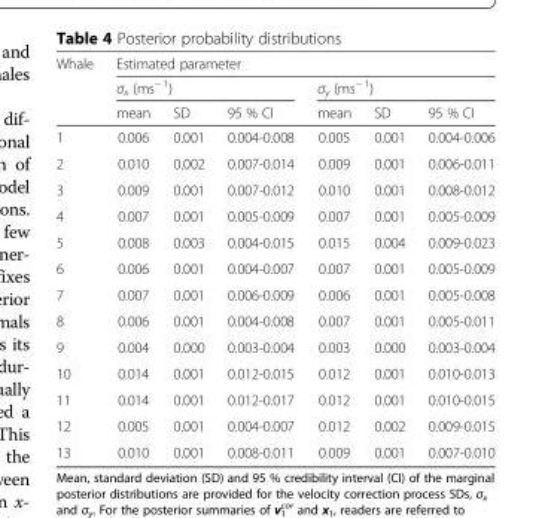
<table><thead><tr><td rowspan="3">Whale</td><td colspan="6">Estimated parameter</td></tr><tr><td colspan="3">σ<sub>x</sub> (ms<sup>− 1</sup>)</td><td colspan="3">σ<sub>y</sub> (ms<sup>− 1</sup>)</td></tr><tr><td>mean</td><td>SD</td><td>95 % CI</td><td>mean</td><td>SD</td><td>95 % CI</td></tr></thead><tbody><tr><td>1</td><td>0.006</td><td>0.001</td><td>0.004-0.008</td><td>0.005</td><td>0.001</td><td>0.004-0.006</td></tr><tr><td>2</td><td>0.010</td><td>0.002</td><td>0.007-0.014</td><td>0.009</td><td>0.001</td><td>0.006-0.011</td></tr><tr><td>3</td><td>0.009</td><td>0.001</td><td>0.007-0.012</td><td>0.010</td><td>0.001</td><td>0.008-0.012</td></tr><tr><td>4</td><td>0.007</td><td>0.001</td><td>0.005-0.009</td><td>0.007</td><td>0.001</td><td>0.005-0.009</td></tr><tr><td>5</td><td>0.008</td><td>0.003</td><td>0.004-0.015</td><td>0.015</td><td>0.004</td><td>0.009-0.023</td></tr><tr><td>6</td><td>0.006</td><td>0.001</td><td>0.004-0.007</td><td>0.007</td><td>0.001</td><td>0.005-0.009</td></tr><tr><td>7</td><td>0.007</td><td>0.001</td><td>0.006-0.009</td><td>0.006</td><td>0.001</td><td>0.005-0.008</td></tr><tr><td>8</td><td>0.006</td><td>0.001</td><td>0.004-0.008</td><td>0.007</td><td>0.001</td><td>0.005-0.011</td></tr><tr><td>9</td><td>0.004</td><td>0.000</td><td>0.003-0.004</td><td>0.003</td><td>0.000</td><td>0.003-0.004</td></tr><tr><td>10</td><td>0.014</td><td>0.001</td><td>0.012-0.015</td><td>0.012</td><td>0.001</td><td>0.010-0.013</td></tr><tr><td>11</td><td>0.014</td><td>0.001</td><td>0.012-0.017</td><td>0.012</td><td>0.001</td><td>0.010-0.015</td></tr><tr><td>12</td><td>0.005</td><td>0.001</td><td>0.004-0.007</td><td>0.012</td><td>0.002</td><td>0.009-0.015</td></tr><tr><td>13</td><td>0.010</td><td>0.001</td><td>0.008-0.011</td><td>0.009</td><td>0.001</td><td>0.007-0.010</td></tr></tbody></table>